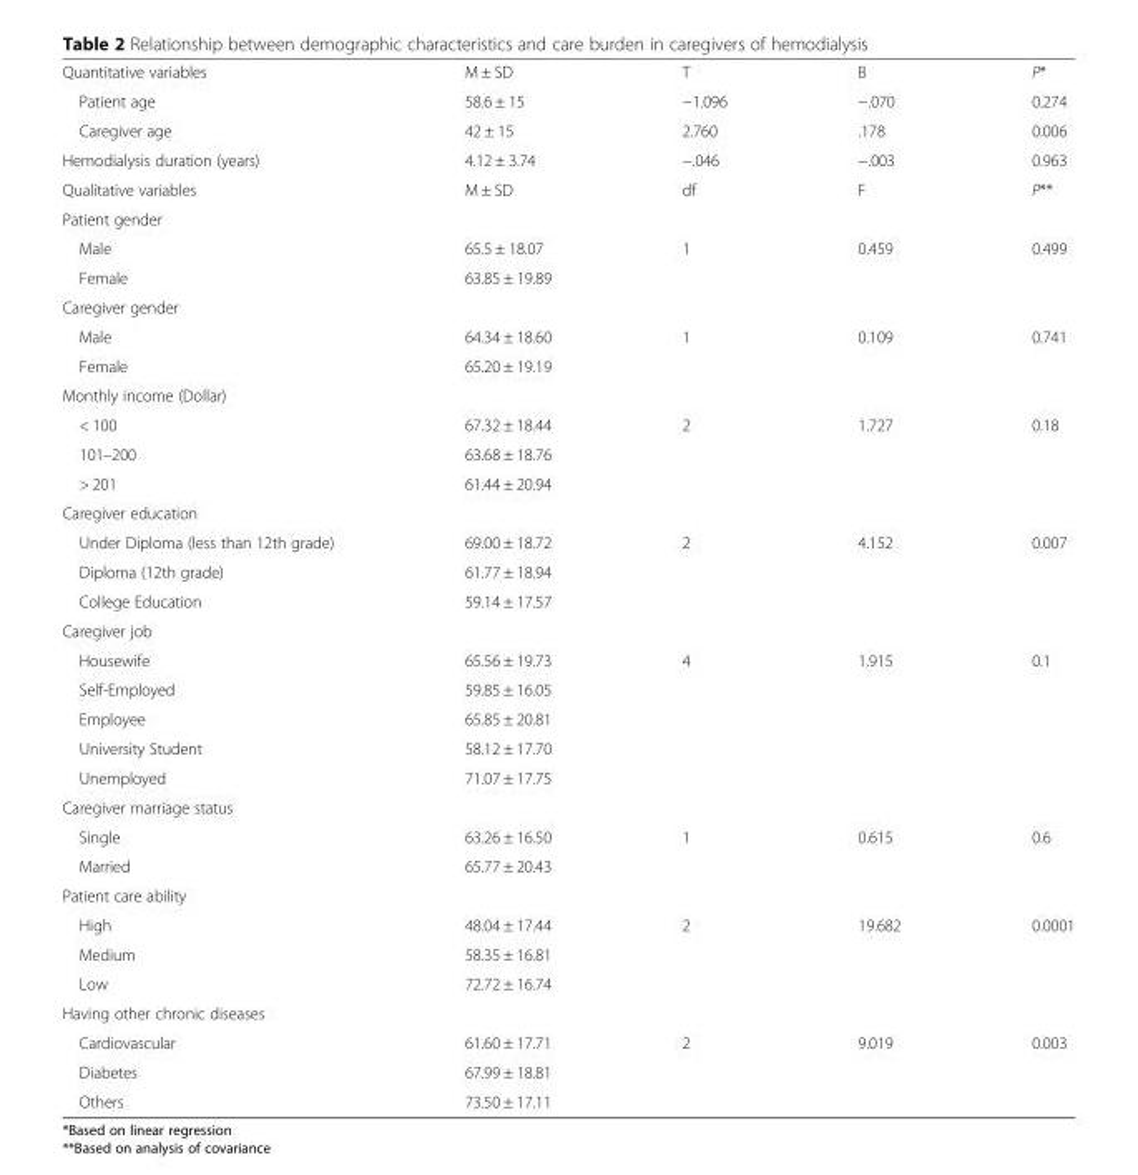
<table><tbody><tr><td>Quantitative variables</td><td>M ± SD</td><td>T</td><td>B</td><td>P*</td></tr><tr><td>Patient age</td><td>58.6 ± 15</td><td>−1.096</td><td>−.070</td><td>0.274</td></tr><tr><td>Caregiver age</td><td>42 ± 15</td><td>2.760</td><td>.178</td><td>0.006</td></tr><tr><td>Hemodialysis duration (years)</td><td>4.12 ± 3.74</td><td>−.046</td><td>−.003</td><td>0.963</td></tr><tr><td>Qualitative variables</td><td>M ± SD</td><td>df</td><td>F</td><td>P**</td></tr><tr><td colspan="5">Patient gender</td></tr><tr><td>Male</td><td>65.5 ± 18.07</td><td rowspan="2">1</td><td rowspan="2">0.459</td><td rowspan="2">0.499</td></tr><tr><td>Female</td><td>63.85 ± 19.89</td></tr><tr><td colspan="5">Caregiver gender</td></tr><tr><td>Male</td><td>64.34 ± 18.60</td><td rowspan="2">1</td><td rowspan="2">0.109</td><td rowspan="2">0.741</td></tr><tr><td>Female</td><td>65.20 ± 19.19</td></tr><tr><td colspan="5">Monthly income (Dollar)</td></tr><tr><td>&lt; 100</td><td>67.32 ± 18.44</td><td rowspan="3">2</td><td rowspan="3">1.727</td><td rowspan="3">0.18</td></tr><tr><td>101–200</td><td>63.68 ± 18.76</td></tr><tr><td>&gt; 201</td><td>61.44 ± 20.94</td></tr><tr><td colspan="5">Caregiver education</td></tr><tr><td>Under Diploma (less than 12th grade)</td><td>69.00 ± 18.72</td><td rowspan="3">2</td><td rowspan="3">4.152</td><td rowspan="3">0.007</td></tr><tr><td>Diploma (12th grade)</td><td>61.77 ± 18.94</td></tr><tr><td>College Education</td><td>59.14 ± 17.57</td></tr><tr><td colspan="5">Caregiver job</td></tr><tr><td>Housewife</td><td>65.56 ± 19.73</td><td rowspan="5">4</td><td rowspan="5">1.915</td><td rowspan="5">0.1</td></tr><tr><td>Self-Employed</td><td>59.85 ± 16.05</td></tr><tr><td>Employee</td><td>65.85 ± 20.81</td></tr><tr><td>University Student</td><td>58.12 ± 17.70</td></tr><tr><td>Unemployed</td><td>71.07 ± 17.75</td></tr><tr><td colspan="5">Caregiver marriage status</td></tr><tr><td>Single</td><td>63.26 ± 16.50</td><td rowspan="2">1</td><td rowspan="2">0.615</td><td rowspan="2">0.6</td></tr><tr><td>Married</td><td>65.77 ± 20.43</td></tr><tr><td colspan="5">Patient care ability</td></tr><tr><td>High</td><td>48.04 ± 17.44</td><td rowspan="3">2</td><td rowspan="3">19.682</td><td rowspan="3">0.0001</td></tr><tr><td>Medium</td><td>58.35 ± 16.81</td></tr><tr><td>Low</td><td>72.72 ± 16.74</td></tr><tr><td colspan="5">Having other chronic diseases</td></tr><tr><td>Cardiovascular</td><td>61.60 ± 17.71</td><td rowspan="3">2</td><td rowspan="3">9.019</td><td rowspan="3">0.003</td></tr><tr><td>Diabetes</td><td>67.99 ± 18.81</td></tr><tr><td>Others</td><td>73.50 ± 17.11</td></tr></tbody></table>